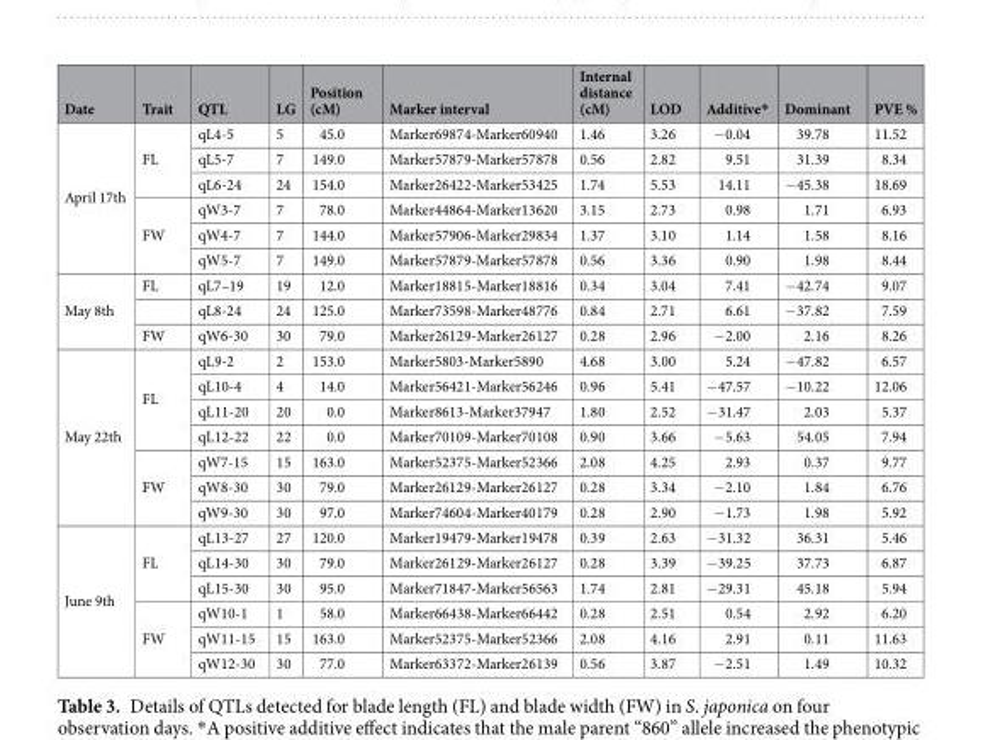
<table><thead><tr><td>Date</td><td>Trait</td><td>QTL</td><td>LG</td><td>Position (cM)</td><td>Marker interval</td><td>Internal distance (cM)</td><td>LOD</td><td>Additive*</td><td>Dominant</td><td>PVE %</td></tr></thead><tbody><tr><td rowspan="6">April 17th</td><td rowspan="3">FL</td><td>qL4-5</td><td>5</td><td>45.0</td><td>Marker69874-Marker60940</td><td>1.46</td><td>3.26</td><td>−0.04</td><td>39.78</td><td>11.52</td></tr><tr><td>qL5-7</td><td>7</td><td>149.0</td><td>Marker57879-Marker57878</td><td>0.56</td><td>2.82</td><td>9.51</td><td>31.39</td><td>8.34</td></tr><tr><td>qL6-24</td><td>24</td><td>154.0</td><td>Marker26422-Marker53425</td><td>1.74</td><td>5.53</td><td>14.11</td><td>−45.38</td><td>18.69</td></tr><tr><td rowspan="3">FW</td><td>qW3-7</td><td>7</td><td>78.0</td><td>Marker44864-Marker13620</td><td>3.15</td><td>2.73</td><td>0.98</td><td>1.71</td><td>6.93</td></tr><tr><td>qW4-7</td><td>7</td><td>144.0</td><td>Marker57906-Marker29834</td><td>1.37</td><td>3.10</td><td>1.14</td><td>1.58</td><td>8.16</td></tr><tr><td>qW5-7</td><td>7</td><td>149.0</td><td>Marker57879-Marker57878</td><td>0.56</td><td>3.36</td><td>0.90</td><td>1.98</td><td>8.44</td></tr><tr><td rowspan="3">May 8th</td><td>FL</td><td>qL7–19</td><td>19</td><td>12.0</td><td>Marker18815-Marker18816</td><td>0.34</td><td>3.04</td><td>7.41</td><td>−42.74</td><td>9.07</td></tr><tr><td></td><td>qL8-24</td><td>24</td><td>125.0</td><td>Marker73598-Marker48776</td><td>0.84</td><td>2.71</td><td>6.61</td><td>−37.82</td><td>7.59</td></tr><tr><td>FW</td><td>qW6-30</td><td>30</td><td>79.0</td><td>Marker26129-Marker26127</td><td>0.28</td><td>2.96</td><td>−2.00</td><td>2.16</td><td>8.26</td></tr><tr><td rowspan="7">May 22th</td><td rowspan="4">FL</td><td>qL9-2</td><td>2</td><td>153.0</td><td>Marker5803-Marker5890</td><td>4.68</td><td>3.00</td><td>5.24</td><td>−47.82</td><td>6.57</td></tr><tr><td>qL10-4</td><td>4</td><td>14.0</td><td>Marker56421-Marker56246</td><td>0.96</td><td>5.41</td><td>−47.57</td><td>−10.22</td><td>12.06</td></tr><tr><td>qL11-20</td><td>20</td><td>0.0</td><td>Marker8613-Marker37947</td><td>1.80</td><td>2.52</td><td>−31.47</td><td>2.03</td><td>5.37</td></tr><tr><td>qL12-22</td><td>22</td><td>0.0</td><td>Marker70109-Marker70108</td><td>0.90</td><td>3.66</td><td>−5.63</td><td>54.05</td><td>7.94</td></tr><tr><td rowspan="3">FW</td><td>qW7-15</td><td>15</td><td>163.0</td><td>Marker52375-Marker52366</td><td>2.08</td><td>4.25</td><td>2.93</td><td>0.37</td><td>9.77</td></tr><tr><td>qW8-30</td><td>30</td><td>79.0</td><td>Marker26129-Marker26127</td><td>0.28</td><td>3.34</td><td>−2.10</td><td>1.84</td><td>6.76</td></tr><tr><td>qW9-30</td><td>30</td><td>97.0</td><td>Marker74604-Marker40179</td><td>0.28</td><td>2.90</td><td>−1.73</td><td>1.98</td><td>5.92</td></tr><tr><td rowspan="6">June 9th</td><td rowspan="3">FL</td><td>qL13-27</td><td>27</td><td>120.0</td><td>Marker19479-Marker19478</td><td>0.39</td><td>2.63</td><td>−31.32</td><td>36.31</td><td>5.46</td></tr><tr><td>qL14-30</td><td>30</td><td>79.0</td><td>Marker26129-Marker26127</td><td>0.28</td><td>3.39</td><td>−39.25</td><td>37.73</td><td>6.87</td></tr><tr><td>qL15-30</td><td>30</td><td>95.0</td><td>Marker71847-Marker56563</td><td>1.74</td><td>2.81</td><td>−29.31</td><td>45.18</td><td>5.94</td></tr><tr><td rowspan="3">FW</td><td>qW10-1</td><td>1</td><td>58.0</td><td>Marker66438-Marker66442</td><td>0.28</td><td>2.51</td><td>0.54</td><td>2.92</td><td>6.20</td></tr><tr><td>qW11-15</td><td>15</td><td>163.0</td><td>Marker52375-Marker52366</td><td>2.08</td><td>4.16</td><td>2.91</td><td>0.11</td><td>11.63</td></tr><tr><td>qW12-30</td><td>30</td><td>77.0</td><td>Marker63372-Marker26139</td><td>0.56</td><td>3.87</td><td>−2.51</td><td>1.49</td><td>10.32</td></tr></tbody></table>